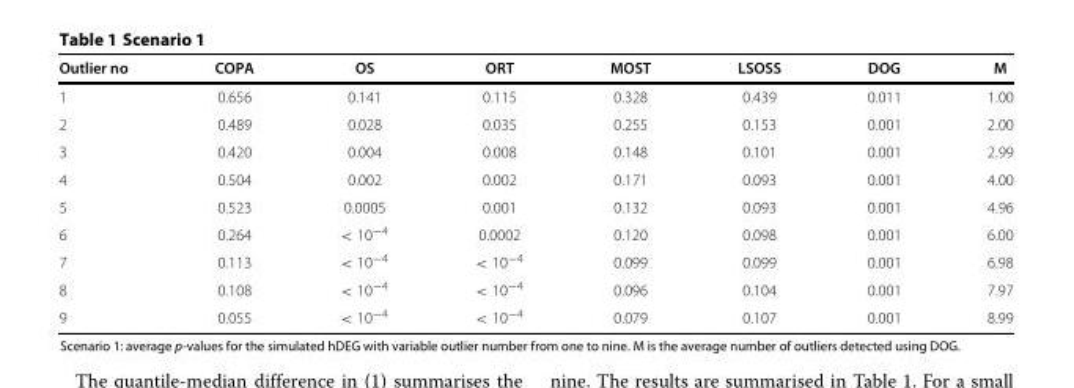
<table><thead><tr><td>Outlier no</td><td>COPA</td><td>OS</td><td>ORT</td><td>MOST</td><td>LSOSS</td><td>DOG</td><td>M</td></tr></thead><tbody><tr><td>1</td><td>0.656</td><td>0.141</td><td>0.115</td><td>0.328</td><td>0.439</td><td>0.011</td><td>1.00</td></tr><tr><td>2</td><td>0.489</td><td>0.028</td><td>0.035</td><td>0.255</td><td>0.153</td><td>0.001</td><td>2.00</td></tr><tr><td>3</td><td>0.420</td><td>0.004</td><td>0.008</td><td>0.148</td><td>0.101</td><td>0.001</td><td>2.99</td></tr><tr><td>4</td><td>0.504</td><td>0.002</td><td>0.002</td><td>0.171</td><td>0.093</td><td>0.001</td><td>4.00</td></tr><tr><td>5</td><td>0.523</td><td>0.0005</td><td>0.001</td><td>0.132</td><td>0.093</td><td>0.001</td><td>4.96</td></tr><tr><td>6</td><td>0.264</td><td>&lt; 10<sup>−4</sup></td><td>0.0002</td><td>0.120</td><td>0.098</td><td>0.001</td><td>6.00</td></tr><tr><td>7</td><td>0.113</td><td>&lt; 10<sup>−4</sup></td><td>&lt; 10<sup>−4</sup></td><td>0.099</td><td>0.099</td><td>0.001</td><td>6.98</td></tr><tr><td>8</td><td>0.108</td><td>&lt; 10<sup>−4</sup></td><td>&lt; 10<sup>−4</sup></td><td>0.096</td><td>0.104</td><td>0.001</td><td>7.97</td></tr><tr><td>9</td><td>0.055</td><td>&lt; 10<sup>−4</sup></td><td>&lt; 10<sup>−4</sup></td><td>0.079</td><td>0.107</td><td>0.001</td><td>8.99</td></tr></tbody></table>